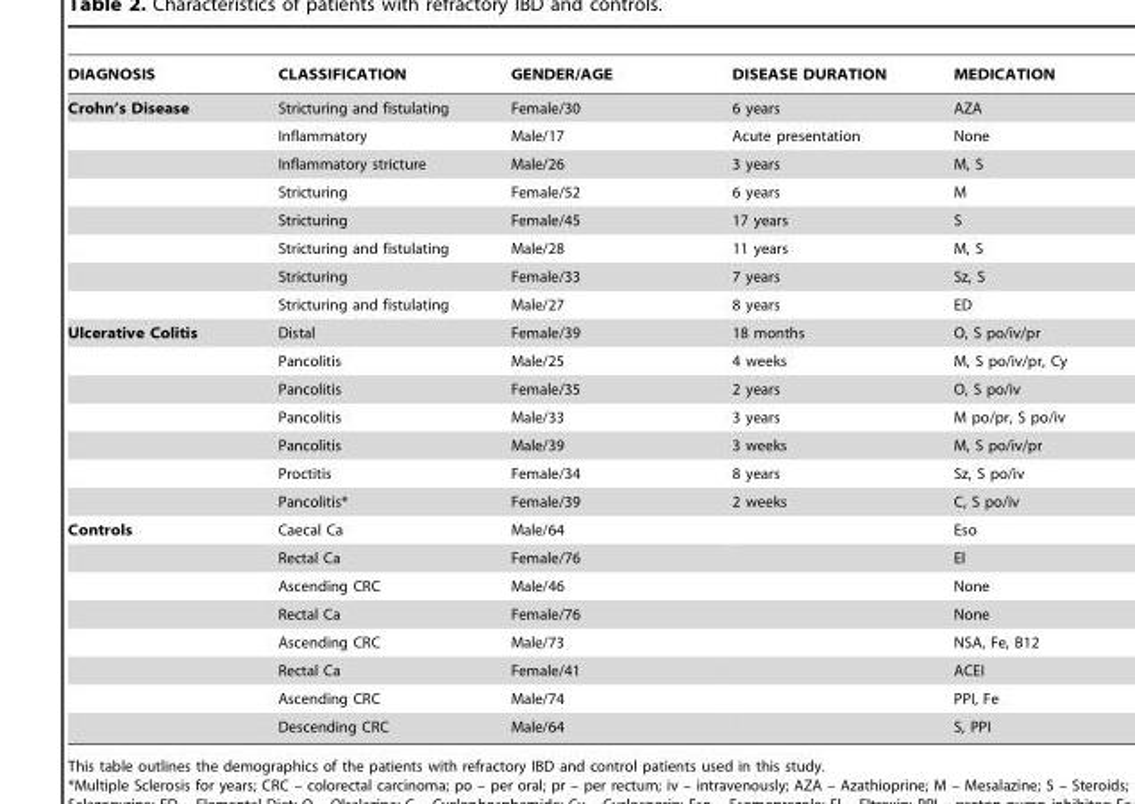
<table><thead><tr><td>DIAGNOSIS</td><td>CLASSIFICATION</td><td>GENDER/AGE</td><td>DISEASE DURATION</td><td>MEDICATION</td></tr></thead><tbody><tr><td rowspan="8">Crohn’s Disease</td><td>Stricturing and fistulating</td><td>Female/30</td><td>6 years</td><td>AZA</td></tr><tr><td>Inflammatory</td><td>Male/17</td><td>Acute presentation</td><td>None</td></tr><tr><td>Inflammatory stricture</td><td>Male/26</td><td>3 years</td><td>M, S</td></tr><tr><td>Stricturing</td><td>Female/52</td><td>6 years</td><td>M</td></tr><tr><td>Stricturing</td><td>Female/45</td><td>17 years</td><td>S</td></tr><tr><td>Stricturing and fistulating</td><td>Male/28</td><td>11 years</td><td>M, S</td></tr><tr><td>Stricturing</td><td>Female/33</td><td>7 years</td><td>Sz, S</td></tr><tr><td>Stricturing and fistulating</td><td>Male/27</td><td>8 years</td><td>ED</td></tr><tr><td rowspan="7">Ulcerative Colitis</td><td>Distal</td><td>Female/39</td><td>18 months</td><td>O, S po/iv/pr</td></tr><tr><td>Pancolitis</td><td>Male/25</td><td>4 weeks</td><td>M, S po/iv/pr, Cy</td></tr><tr><td>Pancolitis</td><td>Female/35</td><td>2 years</td><td>O, S po/iv</td></tr><tr><td>Pancolitis</td><td>Male/33</td><td>3 years</td><td>M po/pr, S po/iv</td></tr><tr><td>Pancolitis</td><td>Male/39</td><td>3 weeks</td><td>M, S po/iv/pr</td></tr><tr><td>Proctitis</td><td>Female/34</td><td>8 years</td><td>Sz, S po/iv</td></tr><tr><td>Pancolitis*</td><td>Female/39</td><td>2 weeks</td><td>C, S po/iv</td></tr><tr><td rowspan="8">Controls</td><td>Caecal Ca</td><td>Male/64</td><td></td><td>Eso</td></tr><tr><td>Rectal Ca</td><td>Female/76</td><td></td><td>El</td></tr><tr><td>Ascending CRC</td><td>Male/46</td><td></td><td>None</td></tr><tr><td>Rectal Ca</td><td>Female/76</td><td></td><td>None</td></tr><tr><td>Ascending CRC</td><td>Male/73</td><td></td><td>NSA, Fe, B12</td></tr><tr><td>Rectal Ca</td><td>Female/41</td><td></td><td>ACEI</td></tr><tr><td>Ascending CRC</td><td>Male/74</td><td></td><td>PPI, Fe</td></tr><tr><td>Descending CRC</td><td>Male/64</td><td></td><td>S, PPI</td></tr></tbody></table>